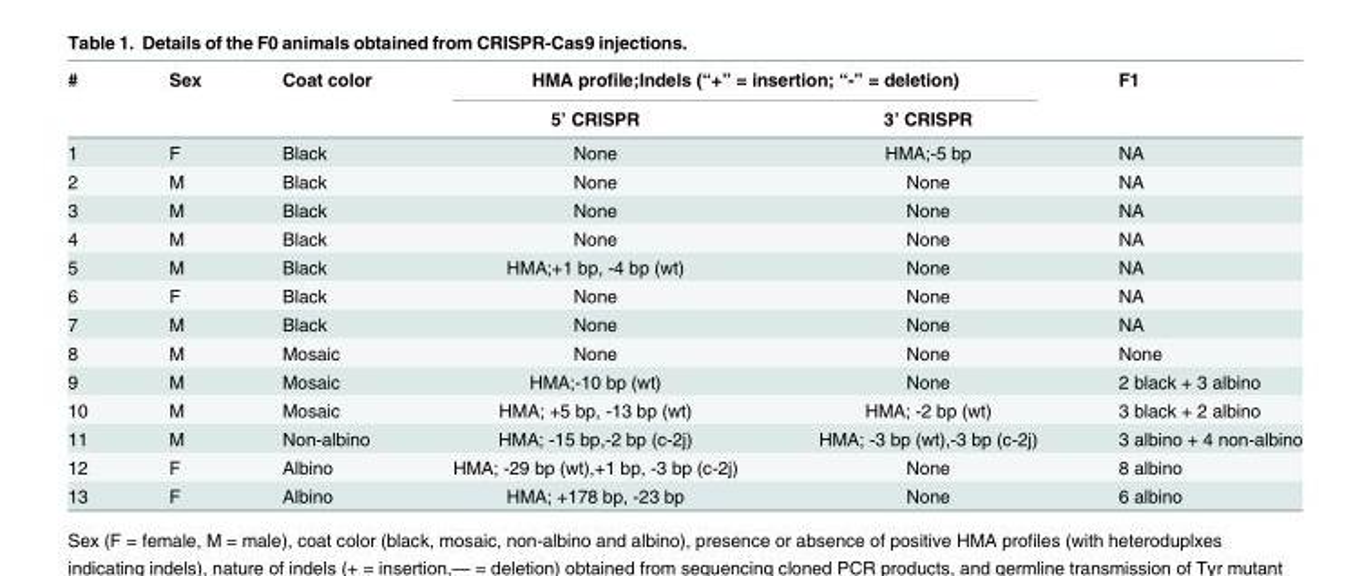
<table><thead><tr><td rowspan="2">#</td><td rowspan="2">Sex</td><td rowspan="2">Coat color</td><td colspan="2">HMA profile;Indels (“+” = insertion; “-” = deletion)</td><td rowspan="2">F1</td></tr><tr><td>5’ CRISPR</td><td>3’ CRISPR</td></tr></thead><tbody><tr><td>1</td><td>F</td><td>Black</td><td>None</td><td>HMA;-5 bp</td><td>NA</td></tr><tr><td>2</td><td>M</td><td>Black</td><td>None</td><td>None</td><td>NA</td></tr><tr><td>3</td><td>M</td><td>Black</td><td>None</td><td>None</td><td>NA</td></tr><tr><td>4</td><td>M</td><td>Black</td><td>None</td><td>None</td><td>NA</td></tr><tr><td>5</td><td>M</td><td>Black</td><td>HMA;+1 bp, -4 bp (wt)</td><td>None</td><td>NA</td></tr><tr><td>6</td><td>F</td><td>Black</td><td>None</td><td>None</td><td>NA</td></tr><tr><td>7</td><td>M</td><td>Black</td><td>None</td><td>None</td><td>NA</td></tr><tr><td>8</td><td>M</td><td>Mosaic</td><td>None</td><td>None</td><td>None</td></tr><tr><td>9</td><td>M</td><td>Mosaic</td><td>HMA;-10 bp (wt)</td><td>None</td><td>2 black + 3 albino</td></tr><tr><td>10</td><td>M</td><td>Mosaic</td><td>HMA; +5 bp, -13 bp (wt)</td><td>HMA; -2 bp (wt)</td><td>3 black + 2 albino</td></tr><tr><td>11</td><td>M</td><td>Non-albino</td><td>HMA; -15 bp,-2 bp (c-2j)</td><td>HMA; -3 bp (wt),-3 bp (c-2j)</td><td>3 albino + 4 non-albino</td></tr><tr><td>12</td><td>F</td><td>Albino</td><td>HMA; -29 bp (wt),+1 bp, -3 bp (c-2j)</td><td>None</td><td>8 albino</td></tr><tr><td>13</td><td>F</td><td>Albino</td><td>HMA; +178 bp, -23 bp</td><td>None</td><td>6 albino</td></tr></tbody></table>